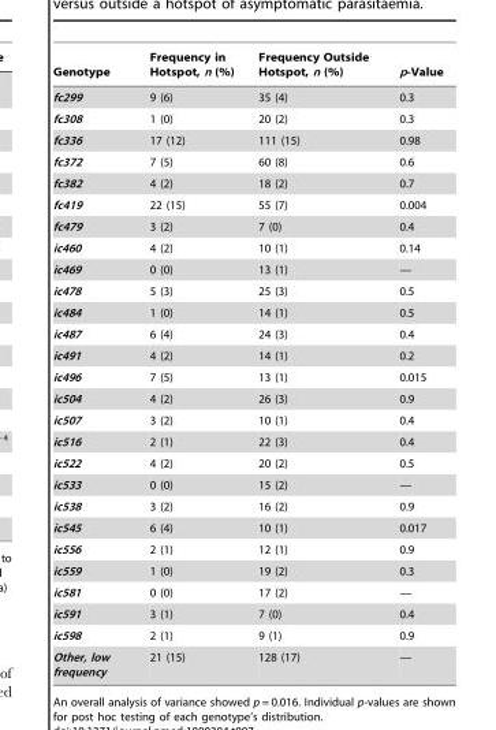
<table><thead><tr><td>Genotype</td><td>Frequency in Hotspot, n (%)</td><td>Frequency Outside Hotspot, n (%)</td><td>p-Value</td></tr></thead><tbody><tr><td>fc299</td><td>9 (6)</td><td>35 (4)</td><td>0.3</td></tr><tr><td>fc308</td><td>1 (0)</td><td>20 (2)</td><td>0.3</td></tr><tr><td>fc336</td><td>17 (12)</td><td>111 (15)</td><td>0.98</td></tr><tr><td>fc372</td><td>7 (5)</td><td>60 (8)</td><td>0.6</td></tr><tr><td>fc382</td><td>4 (2)</td><td>18 (2)</td><td>0.7</td></tr><tr><td>fc419</td><td>22 (15)</td><td>55 (7)</td><td>0.004</td></tr><tr><td>fc479</td><td>3 (2)</td><td>7 (0)</td><td>0.4</td></tr><tr><td>ic460</td><td>4 (2)</td><td>10 (1)</td><td>0.14</td></tr><tr><td>ic469</td><td>0 (0)</td><td>13 (1)</td><td>—</td></tr><tr><td>ic478</td><td>5 (3)</td><td>25 (3)</td><td>0.5</td></tr><tr><td>ic484</td><td>1 (0)</td><td>14 (1)</td><td>0.5</td></tr><tr><td>ic487</td><td>6 (4)</td><td>24 (3)</td><td>0.4</td></tr><tr><td>ic491</td><td>4 (2)</td><td>14 (1)</td><td>0.2</td></tr><tr><td>ic496</td><td>7 (5)</td><td>13 (1)</td><td>0.015</td></tr><tr><td>ic504</td><td>4 (2)</td><td>26 (3)</td><td>0.9</td></tr><tr><td>ic507</td><td>3 (2)</td><td>10 (1)</td><td>0.4</td></tr><tr><td>ic516</td><td>2 (1)</td><td>22 (3)</td><td>0.4</td></tr><tr><td>ic522</td><td>4 (2)</td><td>20 (2)</td><td>0.5</td></tr><tr><td>ic533</td><td>0 (0)</td><td>15 (2)</td><td>—</td></tr><tr><td>ic538</td><td>3 (2)</td><td>16 (2)</td><td>0.9</td></tr><tr><td>ic545</td><td>6 (4)</td><td>10 (1)</td><td>0.017</td></tr><tr><td>ic556</td><td>2 (1)</td><td>12 (1)</td><td>0.9</td></tr><tr><td>ic559</td><td>1 (0)</td><td>19 (2)</td><td>0.3</td></tr><tr><td>ic581</td><td>0 (0)</td><td>17 (2)</td><td>—</td></tr><tr><td>ic591</td><td>3 (1)</td><td>7 (0)</td><td>0.4</td></tr><tr><td>ic598</td><td>2 (1)</td><td>9 (1)</td><td>0.9</td></tr><tr><td>Other, low frequency</td><td>21 (15)</td><td>128 (17)</td><td>—</td></tr></tbody></table>